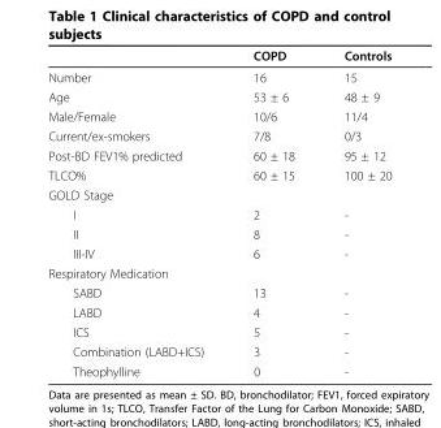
<table><thead><tr><td></td><td>COPD</td><td>Controls</td></tr></thead><tbody><tr><td>Number</td><td>16</td><td>15</td></tr><tr><td>Age</td><td>53 ± 6</td><td>48 ± 9</td></tr><tr><td>Male/Female</td><td>10/6</td><td>11/4</td></tr><tr><td>Current/ex-smokers</td><td>7/8</td><td>0/3</td></tr><tr><td>Post-BD FEV1% predicted</td><td>60 ± 18</td><td>95 ± 12</td></tr><tr><td>TLCO%</td><td>60 ± 15</td><td>100 ± 20</td></tr><tr><td colspan="3">GOLD Stage</td></tr><tr><td>I</td><td>2</td><td>-</td></tr><tr><td>II</td><td>8</td><td>-</td></tr><tr><td>III-IV</td><td>6</td><td>-</td></tr><tr><td colspan="3">Respiratory Medication</td></tr><tr><td>SABD</td><td>13</td><td>-</td></tr><tr><td>LABD</td><td>4</td><td>-</td></tr><tr><td>ICS</td><td>5</td><td>-</td></tr><tr><td>Combination (LABD+ICS)</td><td>3</td><td>-</td></tr><tr><td>Theophylline</td><td>0</td><td>-</td></tr></tbody></table>